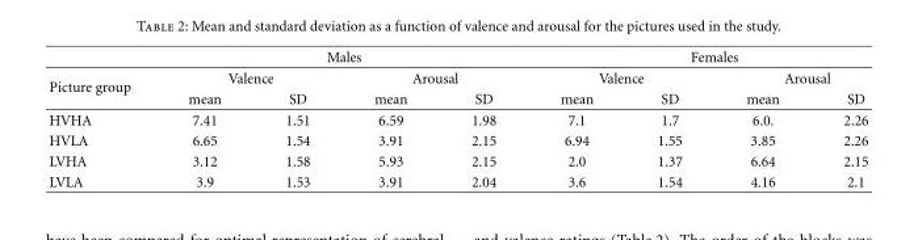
<table><thead><tr><td rowspan="3">Picture group</td><td colspan="4">Males</td><td colspan="4">Females</td></tr><tr><td colspan="2">Valence</td><td colspan="2">Arousal</td><td colspan="2">Valence</td><td colspan="2">Arousal</td></tr><tr><td>mean</td><td>SD</td><td>mean</td><td>SD</td><td>mean</td><td>SD</td><td>mean</td><td>SD</td></tr></thead><tbody><tr><td>HVHA</td><td>7.41</td><td>1.51</td><td>6.59</td><td>1.98</td><td>7.1</td><td>1.7</td><td>6.0.</td><td>2.26</td></tr><tr><td>HVLA</td><td>6.65</td><td>1.54</td><td>3.91</td><td>2.15</td><td>6.94</td><td>1.55</td><td>3.85</td><td>2.26</td></tr><tr><td>LVHA</td><td>3.12</td><td>1.58</td><td>5.93</td><td>2.15</td><td>2.0</td><td>1.37</td><td>6.64</td><td>2.15</td></tr><tr><td>LVLA</td><td>3.9</td><td>1.53</td><td>3.91</td><td>2.04</td><td>3.6</td><td>1.54</td><td>4.16</td><td>2.1</td></tr></tbody></table>